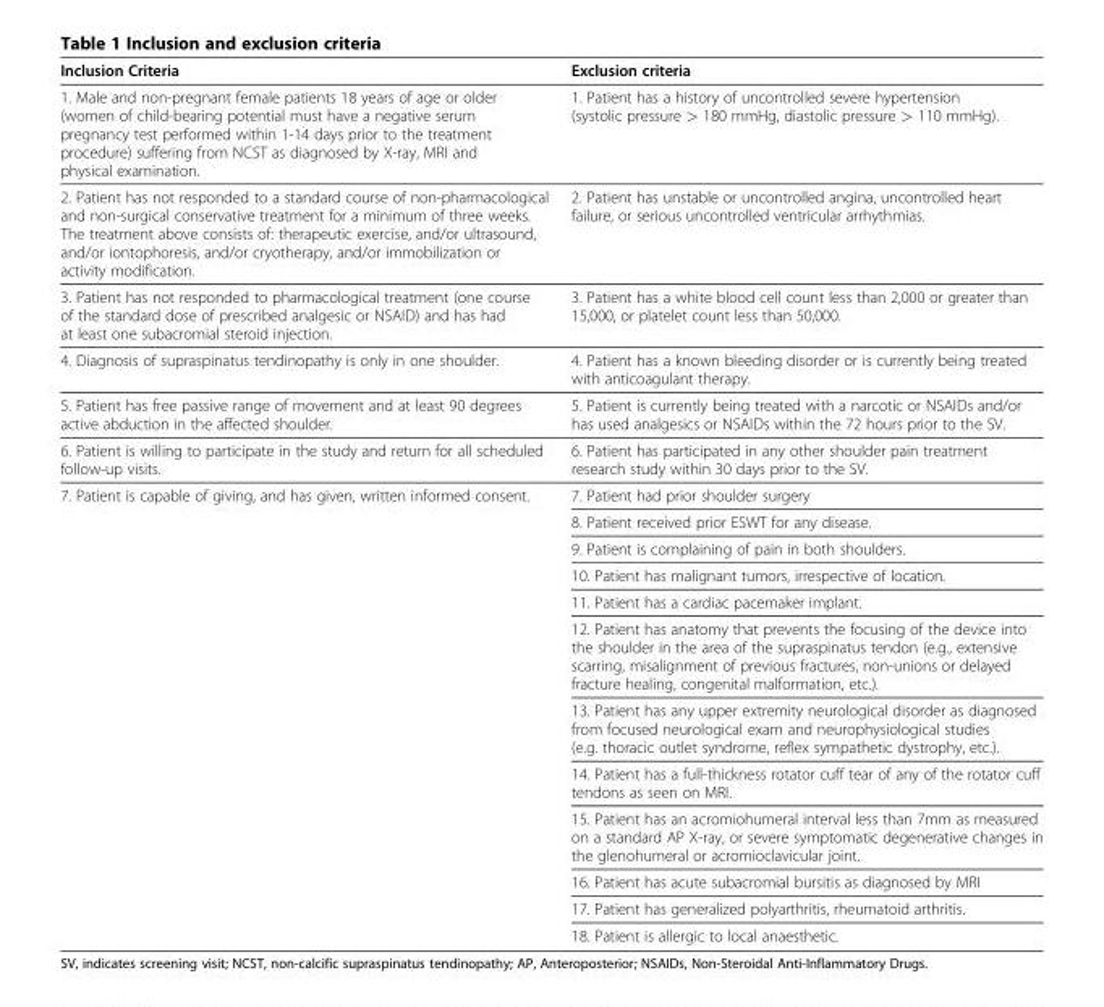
<table><thead><tr><td>Inclusion Criteria</td><td>Exclusion criteria</td></tr></thead><tbody><tr><td>1. Male and non-pregnant female patients 18 years of age or older (women of child-bearing potential must have a negative serum pregnancy test performed within 1-14 days prior to the treatment procedure) suffering from NCST as diagnosed by X-ray, MRI and physical examination.</td><td>1. Patient has a history of uncontrolled severe hypertension (systolic pressure &gt; 180 mmHg, diastolic pressure &gt; 110 mmHg).</td></tr><tr><td>2. Patient has not responded to a standard course of non-pharmacological and non-surgical conservative treatment for a minimum of three weeks. The treatment above consists of: therapeutic exercise, and/or ultrasound, and/or iontophoresis, and/or cryotherapy, and/or immobilization or activity modification.</td><td>2. Patient has unstable or uncontrolled angina, uncontrolled heart failure, or serious uncontrolled ventricular arrhythmias.</td></tr><tr><td>3. Patient has not responded to pharmacological treatment (one course of the standard dose of prescribed analgesic or NSAID) and has had at least one subacromial steroid injection.</td><td>3. Patient has a white blood cell count less than 2,000 or greater than 15,000, or platelet count less than 50,000.</td></tr><tr><td>4. Diagnosis of supraspinatus tendinopathy is only in one shoulder.</td><td>4. Patient has a known bleeding disorder or is currently being treated with anticoagulant therapy.</td></tr><tr><td>5. Patient has free passive range of movement and at least 90 degrees active abduction in the affected shoulder.</td><td>5. Patient is currently being treated with a narcotic or NSAIDs and/or has used analgesics or NSAIDs within the 72 hours prior to the SV.</td></tr><tr><td>6. Patient is willing to participate in the study and return for all scheduled follow-up visits.</td><td>6. Patient has participated in any other shoulder pain treatment research study within 30 days prior to the SV.</td></tr><tr><td rowspan="12">7. Patient is capable of giving, and has given, written informed consent.</td><td>7. Patient had prior shoulder surgery</td></tr><tr><td>8. Patient received prior ESWT for any disease.</td></tr><tr><td>9. Patient is complaining of pain in both shoulders.</td></tr><tr><td>10. Patient has malignant tumors, irrespective of location.</td></tr><tr><td>11. Patient has a cardiac pacemaker implant.</td></tr><tr><td>12. Patient has anatomy that prevents the focusing of the device into the shoulder in the area of the supraspinatus tendon (e.g., extensive scarring, misalignment of previous fractures, non-unions or delayed fracture healing, congenital malformation, etc.).</td></tr><tr><td>13. Patient has any upper extremity neurological disorder as diagnosed from focused neurological exam and neurophysiological studies (e.g. thoracic outlet syndrome, reflex sympathetic dystrophy, etc.).</td></tr><tr><td>14. Patient has a full-thickness rotator cuff tear of any of the rotator cuff tendons as seen on MRI.</td></tr><tr><td>15. Patient has an acromiohumeral interval less than 7mm as measured on a standard AP X-ray, or severe symptomatic degenerative changes in the glenohumeral or acromioclavicular joint.</td></tr><tr><td>16. Patient has acute subacromial bursitis as diagnosed by MRI</td></tr><tr><td>17. Patient has generalized polyarthritis, rheumatoid arthritis.</td></tr><tr><td>18. Patient is allergic to local anaesthetic.</td></tr></tbody></table>